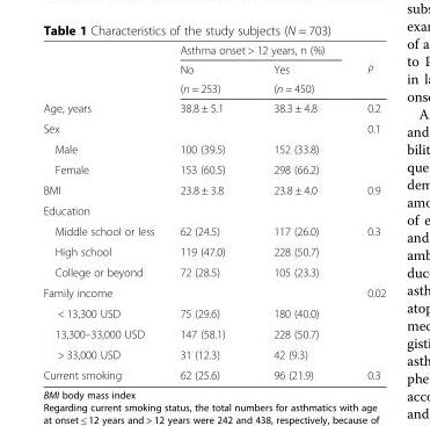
<table><thead><tr><td rowspan="3"></td><td colspan="2">Asthma onset &gt; 12 years, n (%)</td><td rowspan="3">P</td></tr><tr><td rowspan="2">No (n = 253)</td><td rowspan="2">Yes (n = 450)</td></tr><tr></tr></thead><tbody><tr><td>Age, years</td><td>38.8 ± 5.1</td><td>38.3 ± 4.8</td><td>0.2</td></tr><tr><td>Sex</td><td></td><td></td><td>0.1</td></tr><tr><td>Male</td><td>100 (39.5)</td><td>152 (33.8)</td><td></td></tr><tr><td>Female</td><td>153 (60.5)</td><td>298 (66.2)</td><td></td></tr><tr><td>BMI</td><td>23.8 ± 3.8</td><td>23.8 ± 4.0</td><td>0.9</td></tr><tr><td colspan="4">Education</td></tr><tr><td>Middle school or less</td><td>62 (24.5)</td><td>117 (26.0)</td><td>0.3</td></tr><tr><td>High school</td><td>119 (47.0)</td><td>228 (50.7)</td><td></td></tr><tr><td>College or beyond</td><td>72 (28.5)</td><td>105 (23.3)</td><td></td></tr><tr><td>Family income</td><td></td><td></td><td>0.02</td></tr><tr><td>&lt; 13,300 USD</td><td>75 (29.6)</td><td>180 (40.0)</td><td></td></tr><tr><td>13,300–33,000 USD</td><td>147 (58.1)</td><td>228 (50.7)</td><td></td></tr><tr><td>&gt; 33,000 USD</td><td>31 (12.3)</td><td>42 (9.3)</td><td></td></tr><tr><td>Current smoking</td><td>62 (25.6)</td><td>96 (21.9)</td><td>0.3</td></tr></tbody></table>